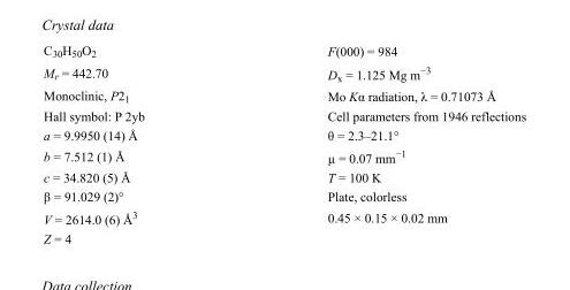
<table><tbody><tr><td>C<sub>30</sub>H<sub>50</sub>O<sub>2</sub></td><td>F(000) = 984</td></tr><tr><td>M<sub>r</sub> = 442.70</td><td>D<sub>x</sub> = 1.125 Mg m<sup>−3</sup></td></tr><tr><td>Monoclinic, P2<sub>1</sub></td><td>Mo Kα radiation, λ = 0.71073 Å</td></tr><tr><td>Hall symbol: P 2yb</td><td>Cell parameters from 1946 reflections</td></tr><tr><td>a = 9.9950 (14) Å</td><td>θ = 2.3–21.1°</td></tr><tr><td>b = 7.512 (1) Å</td><td>µ = 0.07 mm<sup>−1</sup></td></tr><tr><td>c = 34.820 (5) Å</td><td>T = 100 K</td></tr><tr><td>β = 91.029 (2)°</td><td>Plate, colorless</td></tr><tr><td>V = 2614.0 (6) Å<sup>3</sup></td><td>0.45 × 0.15 × 0.02 mm</td></tr><tr><td>Z = 4</td><td></td></tr></tbody></table>